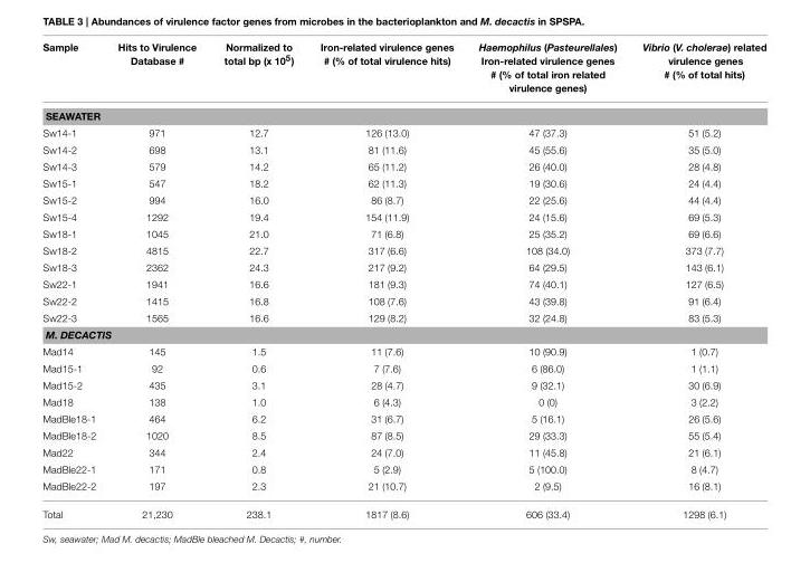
<table><thead><tr><td>Sample</td><td>Hits to Virulence Database #</td><td>Normalized to total bp (x 10<sup>5</sup>)</td><td>Iron-related virulence genes # (% of total virulence hits)</td><td>Haemophilus (Pasteurellales) Iron-related virulence genes # (% of total iron related virulence genes)</td><td>Vibrio (V. cholerae) related virulence genes # (% of total hits)</td></tr></thead><tbody><tr><td colspan="6">SEAWATER</td></tr><tr><td>Sw14-1</td><td>971</td><td>12.7</td><td>126 (13.0)</td><td>47 (37.3)</td><td>51 (5.2)</td></tr><tr><td>Sw14-2</td><td>698</td><td>13.1</td><td>81 (11.6)</td><td>45 (55.6)</td><td>35 (5.0)</td></tr><tr><td>Sw14-3</td><td>579</td><td>14.2</td><td>65 (11.2)</td><td>26 (40.0)</td><td>28 (4.8)</td></tr><tr><td>Sw15-1</td><td>547</td><td>18.2</td><td>62 (11.3)</td><td>19 (30.6)</td><td>24 (4.4)</td></tr><tr><td>Sw15-2</td><td>994</td><td>16.0</td><td>86 (8.7)</td><td>22 (25.6)</td><td>44 (4.4)</td></tr><tr><td>Sw15-4</td><td>1292</td><td>19.4</td><td>154 (11.9)</td><td>24 (15.6)</td><td>69 (5.3)</td></tr><tr><td>Sw18-1</td><td>1045</td><td>21.0</td><td>71 (6.8)</td><td>25 (35.2)</td><td>69 (6.6)</td></tr><tr><td>Sw18-2</td><td>4815</td><td>22.7</td><td>317 (6.6)</td><td>108 (34.0)</td><td>373 (7.7)</td></tr><tr><td>Sw18-3</td><td>2362</td><td>24.3</td><td>217 (9.2)</td><td>64 (29.5)</td><td>143 (6.1)</td></tr><tr><td>Sw22-1</td><td>1941</td><td>16.6</td><td>181 (9.3)</td><td>74 (40.1)</td><td>127 (6.5)</td></tr><tr><td>Sw22-2</td><td>1415</td><td>16.8</td><td>108 (7.6)</td><td>43 (39.8)</td><td>91 (6.4)</td></tr><tr><td>Sw22-3</td><td>1565</td><td>16.6</td><td>129 (8.2)</td><td>32 (24.8)</td><td>83 (5.3)</td></tr><tr><td colspan="6">M. DECACTIS</td></tr><tr><td>Mad14</td><td>145</td><td>1.5</td><td>11 (7.6)</td><td>10 (90.9)</td><td>1 (0.7)</td></tr><tr><td>Mad15-1</td><td>92</td><td>0.6</td><td>7 (7.6)</td><td>6 (86.0)</td><td>1 (1.1)</td></tr><tr><td>Mad15-2</td><td>435</td><td>3.1</td><td>28 (4.7)</td><td>9 (32.1)</td><td>30 (6.9)</td></tr><tr><td>Mad18</td><td>138</td><td>1.0</td><td>6 (4.3)</td><td>0 (0)</td><td>3 (2.2)</td></tr><tr><td>MadBle18-1</td><td>464</td><td>6.2</td><td>31 (6.7)</td><td>5 (16.1)</td><td>26 (5.6)</td></tr><tr><td>MadBle18-2</td><td>1020</td><td>8.5</td><td>87 (8.5)</td><td>29 (33.3)</td><td>55 (5.4)</td></tr><tr><td>Mad22</td><td>344</td><td>2.4</td><td>24 (7.0)</td><td>11 (45.8)</td><td>21 (6.1)</td></tr><tr><td>MadBle22-1</td><td>171</td><td>0.8</td><td>5 (2.9)</td><td>5 (100.0)</td><td>8 (4.7)</td></tr><tr><td>MadBle22-2</td><td>197</td><td>2.3</td><td>21 (10.7)</td><td>2 (9.5)</td><td>16 (8.1)</td></tr><tr><td>Total</td><td>21,230</td><td>238.1</td><td>1817 (8.6)</td><td>606 (33.4)</td><td>1298 (6.1)</td></tr></tbody></table>